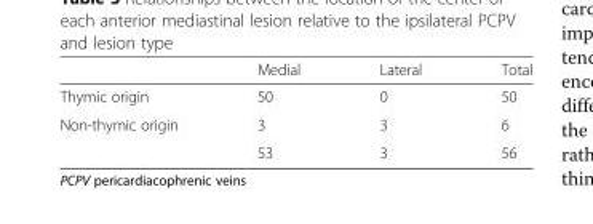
<table><thead><tr><td></td><td>Medial</td><td>Lateral</td><td>Total</td></tr></thead><tbody><tr><td>Thymic origin</td><td>50</td><td>0</td><td>50</td></tr><tr><td rowspan="2">Non-thymic origin</td><td>3</td><td>3</td><td>6</td></tr><tr><td>53</td><td>3</td><td>56</td></tr></tbody></table>